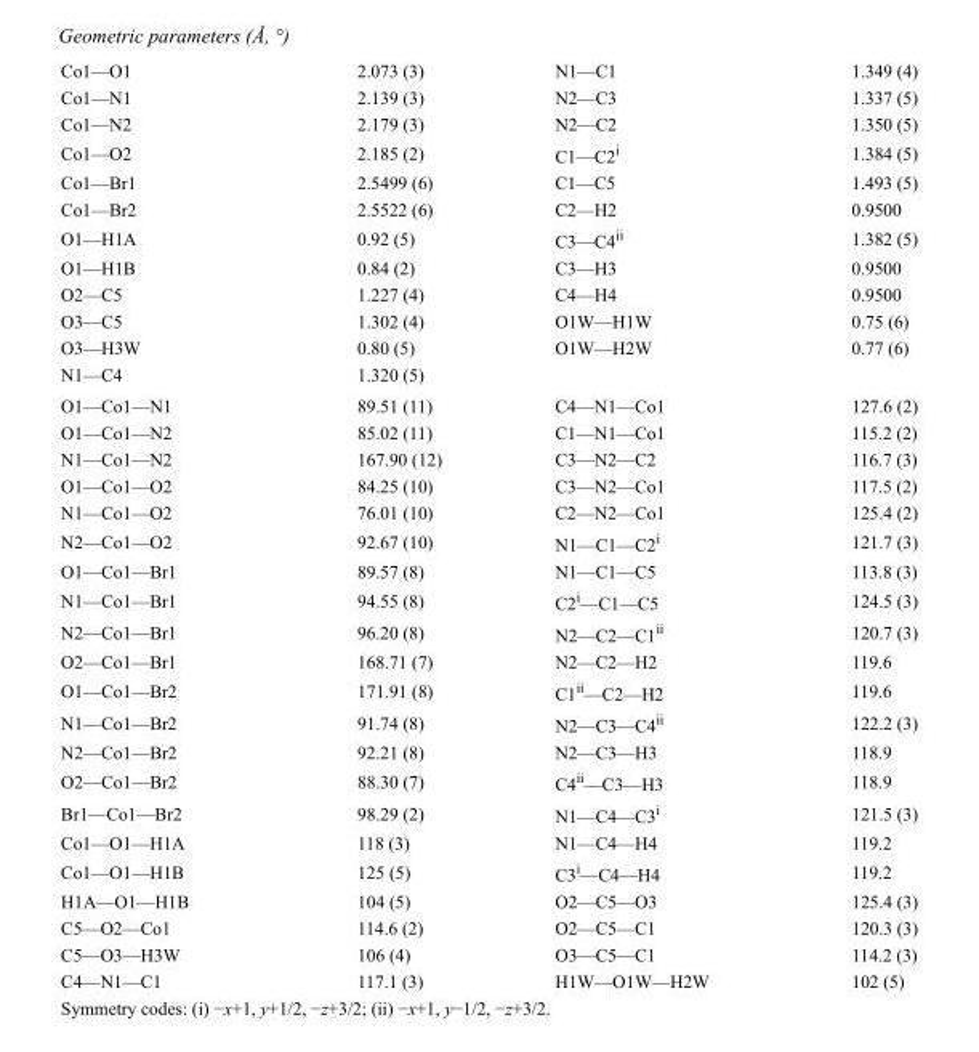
<table><tbody><tr><td>Co1—O1</td><td>2.073 (3)</td><td>N1—C1</td><td>1.349 (4)</td></tr><tr><td>Co1—N1</td><td>2.139 (3)</td><td>N2—C3</td><td>1.337 (5)</td></tr><tr><td>Co1—N2</td><td>2.179 (3)</td><td>N2—C2</td><td>1.350 (5)</td></tr><tr><td>Co1—O2</td><td>2.185 (2)</td><td>C1—C2<sup>i</sup></td><td>1.384 (5)</td></tr><tr><td>Co1—Br1</td><td>2.5499 (6)</td><td>C1—C5</td><td>1.493 (5)</td></tr><tr><td>Co1—Br2</td><td>2.5522 (6)</td><td>C2—H2</td><td>0.9500</td></tr><tr><td>O1—H1A</td><td>0.92 (5)</td><td>C3—C4<sup>ii</sup></td><td>1.382 (5)</td></tr><tr><td>O1—H1B</td><td>0.84 (2)</td><td>C3—H3</td><td>0.9500</td></tr><tr><td>O2—C5</td><td>1.227 (4)</td><td>C4—H4</td><td>0.9500</td></tr><tr><td>O3—C5</td><td>1.302 (4)</td><td>O1W—H1W</td><td>0.75 (6)</td></tr><tr><td>O3—H3W</td><td>0.80 (5)</td><td>O1W—H2W</td><td>0.77 (6)</td></tr><tr><td>N1—C4</td><td>1.320 (5)</td><td></td><td></td></tr><tr><td>O1—Co1—N1</td><td>89.51 (11)</td><td>C4—N1—Co1</td><td>127.6 (2)</td></tr><tr><td>O1—Co1—N2</td><td>85.02 (11)</td><td>C1—N1—Co1</td><td>115.2 (2)</td></tr><tr><td>N1—Co1—N2</td><td>167.90 (12)</td><td>C3—N2—C2</td><td>116.7 (3)</td></tr><tr><td>O1—Co1—O2</td><td>84.25 (10)</td><td>C3—N2—Co1</td><td>117.5 (2)</td></tr><tr><td>N1—Co1—O2</td><td>76.01 (10)</td><td>C2—N2—Co1</td><td>125.4 (2)</td></tr><tr><td>N2—Co1—O2</td><td>92.67 (10)</td><td>N1—C1—C2<sup>i</sup></td><td>121.7 (3)</td></tr><tr><td>O1—Co1—Br1</td><td>89.57 (8)</td><td>N1—C1—C5</td><td>113.8 (3)</td></tr><tr><td>N1—Co1—Br1</td><td>94.55 (8)</td><td>C2<sup>i</sup>—C1—C5</td><td>124.5 (3)</td></tr><tr><td>N2—Co1—Br1</td><td>96.20 (8)</td><td>N2—C2—C1<sup>ii</sup></td><td>120.7 (3)</td></tr><tr><td>O2—Co1—Br1</td><td>168.71 (7)</td><td>N2—C2—H2</td><td>119.6</td></tr><tr><td>O1—Co1—Br2</td><td>171.91 (8)</td><td>C1<sup>ii</sup>—C2—H2</td><td>119.6</td></tr><tr><td>N1—Co1—Br2</td><td>91.74 (8)</td><td>N2—C3—C4<sup>ii</sup></td><td>122.2 (3)</td></tr><tr><td>N2—Co1—Br2</td><td>92.21 (8)</td><td>N2—C3—H3</td><td>118.9</td></tr><tr><td>O2—Co1—Br2</td><td>88.30 (7)</td><td>C4<sup>ii</sup>—C3—H3</td><td>118.9</td></tr><tr><td>Br1—Co1—Br2</td><td>98.29 (2)</td><td>N1—C4—C3<sup>i</sup></td><td>121.5 (3)</td></tr><tr><td>Co1—O1—H1A</td><td>118 (3)</td><td>N1—C4—H4</td><td>119.2</td></tr><tr><td>Co1—O1—H1B</td><td>125 (5)</td><td>C3<sup>i</sup>—C4—H4</td><td>119.2</td></tr><tr><td>H1A—O1—H1B</td><td>104 (5)</td><td>O2—C5—O3</td><td>125.4 (3)</td></tr><tr><td>C5—O2—Co1</td><td>114.6 (2)</td><td>O2—C5—C1</td><td>120.3 (3)</td></tr><tr><td>C5—O3—H3W</td><td>106 (4)</td><td>O3—C5—C1</td><td>114.2 (3)</td></tr><tr><td>C4—N1—C1</td><td>117.1 (3)</td><td>H1W—O1W—H2W</td><td>102 (5)</td></tr></tbody></table>